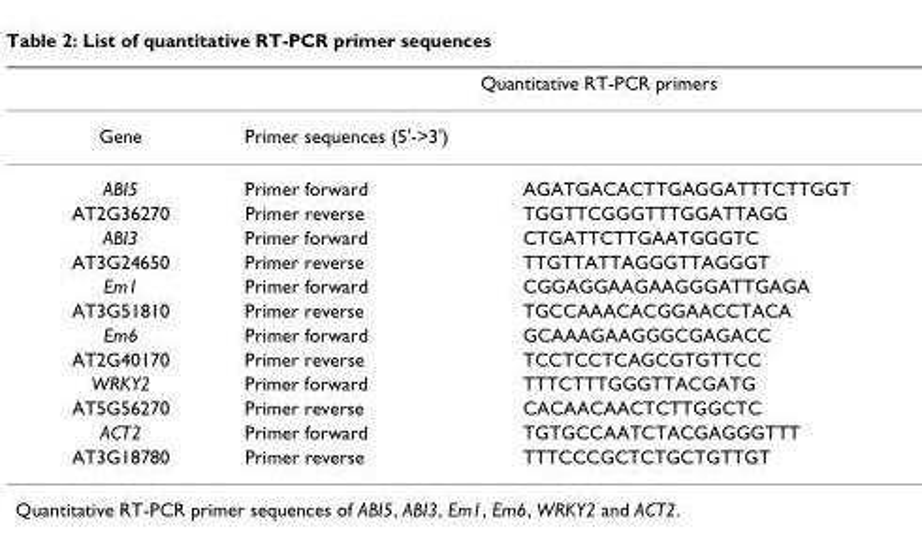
<table><thead><tr><td colspan="3">Quantitative RT-PCR primers</td></tr><tr><td rowspan="2">Gene ABI5</td><td colspan="2">Primer sequences (5&#x27;-&gt;3&#x27;)</td></tr><tr><td>Primer forward</td><td>AGATGACACTTGAGGATTTCTTGGT</td></tr></thead><tbody><tr><td>AT2G36270</td><td>Primer reverse</td><td>TGGTTCGGGTTTGGATTAGG</td></tr><tr><td>ABI3</td><td>Primer forward</td><td>CTGATTCTTGAATGGGTC</td></tr><tr><td>AT3G24650</td><td>Primer reverse</td><td>TTGTTATTAGGGTTAGGGT</td></tr><tr><td>Em1</td><td>Primer forward</td><td>CGGAGGAAGAAGGGATTGAGA</td></tr><tr><td>AT3G51810</td><td>Primer reverse</td><td>TGCCAAACACGGAACCTACA</td></tr><tr><td>Em6</td><td>Primer forward</td><td>GCAAAGAAGGGCGAGACC</td></tr><tr><td>AT2G40170</td><td>Primer reverse</td><td>TCCTCCTCAGCGTGTTCC</td></tr><tr><td>WRKY2</td><td>Primer forward</td><td>TTTCTTTGGGTTACGATG</td></tr><tr><td>AT5G56270</td><td>Primer reverse</td><td>CACAACAACTCTTGGCTC</td></tr><tr><td>ACT2</td><td>Primer forward</td><td>TGTGCCAATCTACGAGGGTTT</td></tr><tr><td>AT3G18780</td><td>Primer reverse</td><td>TTTCCCGCTCTGCTGTTGT</td></tr></tbody></table>